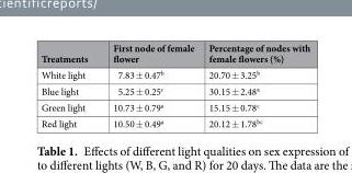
<table><thead><tr><td>Treatments</td><td>First node of female flower</td><td>Percentage of nodes with female flowers (%)</td></tr></thead><tbody><tr><td>White light</td><td>7.83 ± 0.47<sup>b</sup></td><td>20.70 ± 3.25<sup>b</sup></td></tr><tr><td>Blue light</td><td>5.25 ± 0.25<sup>c</sup></td><td>30.15 ± 2.48<sup>a</sup></td></tr><tr><td>Green light</td><td>10.73 ± 0.79<sup>a</sup></td><td>15.15 ± 0.78<sup>c</sup></td></tr><tr><td>Red light</td><td>10.50 ± 0.49<sup>a</sup></td><td>20.12 ± 1.78<sup>bc</sup></td></tr></tbody></table>